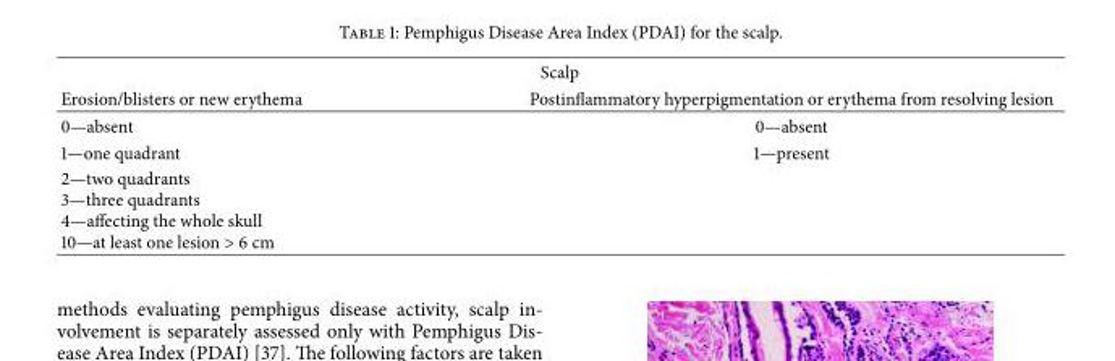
<table><thead><tr><td colspan="2">Scalp</td></tr><tr><td>Erosion/blisters or new erythema</td><td>Postinflammatory hyperpigmentation or erythema from resolving lesion</td></tr></thead><tbody><tr><td>0—absent</td><td>0—absent</td></tr><tr><td>1—one quadrant</td><td>1—present</td></tr><tr><td>2—two quadrants 3—three quadrants 4—affecting the whole skull 10—at least one lesion &gt; 6 cm</td><td></td></tr></tbody></table>